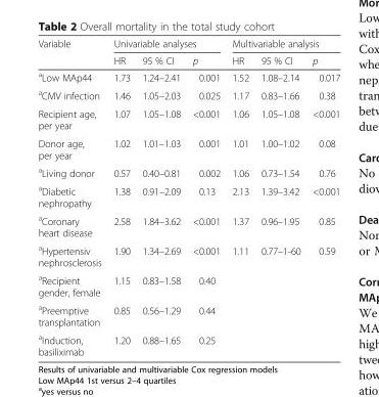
<table><thead><tr><td rowspan="2">Variable</td><td colspan="3">Univariable analyses</td><td colspan="3">Multivariable analysis</td></tr><tr><td>HR</td><td>95 % CI</td><td>p</td><td>HR</td><td>95 % CI</td><td>p</td></tr></thead><tbody><tr><td><sup>a</sup>Low MAp44</td><td>1.73</td><td>1.24–2.41</td><td>0.001</td><td>1.52</td><td>1.08–2.14</td><td>0.017</td></tr><tr><td><sup>a</sup>CMV infection</td><td>1.46</td><td>1.05–2.03</td><td>0.025</td><td>1.17</td><td>0.83–1.66</td><td>0.38</td></tr><tr><td>Recipient age, per year</td><td>1.07</td><td>1.05–1.08</td><td>&lt;0.001</td><td>1.06</td><td>1.05–1.08</td><td>&lt;0.001</td></tr><tr><td>Donor age, per year</td><td>1.02</td><td>1.01–1.03</td><td>0.001</td><td>1.01</td><td>1.00–1.02</td><td>0.08</td></tr><tr><td><sup>a</sup>Living donor</td><td>0.57</td><td>0.40–0.81</td><td>0.002</td><td>1.06</td><td>0.73–1.54</td><td>0.76</td></tr><tr><td><sup>a</sup>Diabetic nephropathy</td><td>1.38</td><td>0.91–2.09</td><td>0.13</td><td>2.13</td><td>1.39–3.42</td><td>&lt;0.001</td></tr><tr><td><sup>a</sup>Coronary heart disease</td><td>2.58</td><td>1.84–3.62</td><td>&lt;0.001</td><td>1.37</td><td>0.96–1.95</td><td>0.85</td></tr><tr><td><sup>a</sup>Hypertensiv nephrosclerosis</td><td>1.90</td><td>1.34–2.69</td><td>&lt;0.001</td><td>1.11</td><td>0.77–1-60</td><td>0.59</td></tr><tr><td><sup>a</sup>Recipient gender, female</td><td>1.15</td><td>0.83–1.58</td><td>0.40</td><td></td><td></td><td></td></tr><tr><td><sup>a</sup>Preemptive transplantation</td><td>0.85</td><td>0.56–1.29</td><td>0.44</td><td></td><td></td><td></td></tr><tr><td><sup>a</sup>Induction, basiliximab</td><td>1.20</td><td>0.88–1.65</td><td>0.25</td><td></td><td></td><td></td></tr></tbody></table>